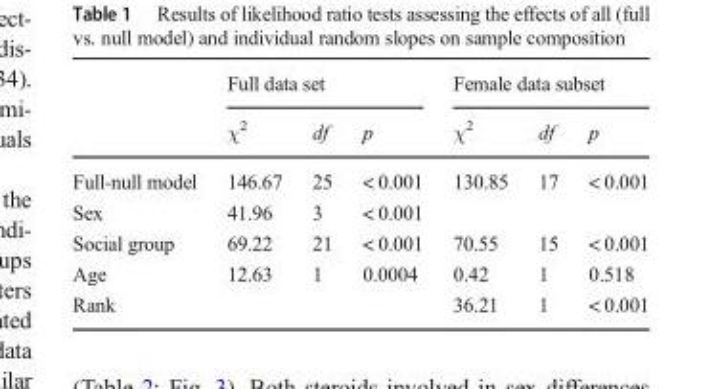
<table><thead><tr><td rowspan="2"></td><td colspan="3">Full data set</td><td colspan="3">Female data subset</td></tr><tr><td>χ<sup>2</sup></td><td>df</td><td>p</td><td>χ<sup>2</sup></td><td>df</td><td>p</td></tr></thead><tbody><tr><td>Full-null model</td><td>146.67</td><td>25</td><td>&lt; 0.001</td><td>130.85</td><td>17</td><td>&lt; 0.001</td></tr><tr><td>Sex</td><td>41.96</td><td>3</td><td>&lt; 0.001</td><td></td><td></td><td></td></tr><tr><td>Social group</td><td>69.22</td><td>21</td><td>&lt; 0.001</td><td>70.55</td><td>15</td><td>&lt; 0.001</td></tr><tr><td>Age</td><td>12.63</td><td>1</td><td>0.0004</td><td>0.42</td><td>1</td><td>0.518</td></tr><tr><td>Rank</td><td></td><td></td><td></td><td>36.21</td><td>1</td><td>&lt; 0.001</td></tr></tbody></table>